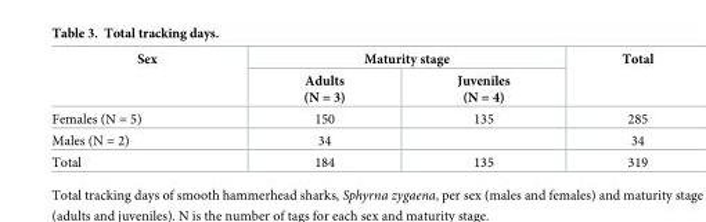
<table><thead><tr><td rowspan="2">Sex</td><td colspan="2">Maturity stage</td><td rowspan="2">Total</td></tr><tr><td>Adults (N = 3)</td><td>Juveniles (N = 4)</td></tr></thead><tbody><tr><td>Females (N = 5)</td><td>150</td><td>135</td><td>285</td></tr><tr><td>Males (N = 2)</td><td>34</td><td></td><td>34</td></tr><tr><td>Total</td><td>184</td><td>135</td><td>319</td></tr></tbody></table>